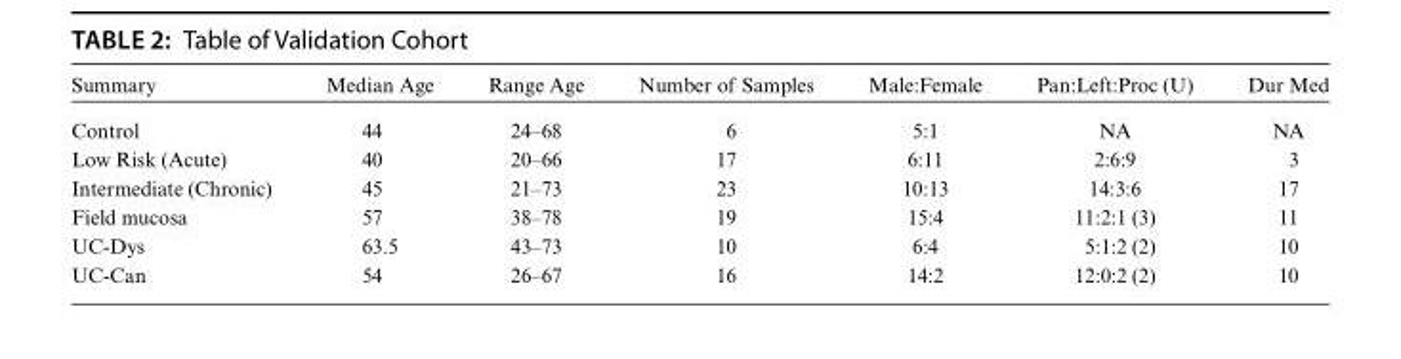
<table><thead><tr><td>Summary</td><td>Median Age</td><td>Range Age</td><td>Number of Samples</td><td>Male:Female</td><td>Pan:Left:Proc (U)</td><td>Dur Med</td></tr></thead><tbody><tr><td>Control</td><td>44</td><td>24–68</td><td>6</td><td>5:1</td><td>NA</td><td>NA</td></tr><tr><td>Low Risk (Acute)</td><td>40</td><td>20–66</td><td>17</td><td>6:11</td><td>2:6:9</td><td>3</td></tr><tr><td>Intermediate (Chronic)</td><td>45</td><td>21–73</td><td>23</td><td>10:13</td><td>14:3:6</td><td>17</td></tr><tr><td>Field mucosa</td><td>57</td><td>38–78</td><td>19</td><td>15:4</td><td>11:2:1 (3)</td><td>11</td></tr><tr><td>UC-Dys</td><td>63.5</td><td>43–73</td><td>10</td><td>6:4</td><td>5:1:2 (2)</td><td>10</td></tr><tr><td>UC-Can</td><td>54</td><td>26–67</td><td>16</td><td>14:2</td><td>12:0:2 (2)</td><td>10</td></tr></tbody></table>